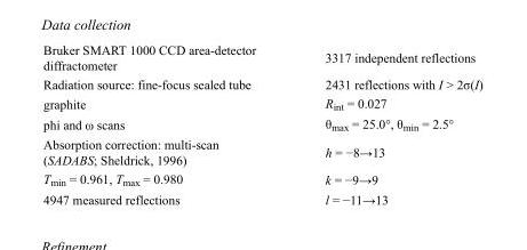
<table><tbody><tr><td>Bruker SMART 1000 CCD area-detector diffractometer</td><td>3317 independent reflections</td></tr><tr><td>Radiation source: fine-focus sealed tube</td><td>2431 reflections with I &gt; 2σ(I)</td></tr><tr><td>graphite</td><td>R<sub>int</sub> = 0.027</td></tr><tr><td>phi and ω scans</td><td>θ<sub>max</sub> = 25.0°, θ<sub>min</sub> = 2.5°</td></tr><tr><td>Absorption correction: multi-scan (SADABS; Sheldrick, 1996)</td><td>h = −8→13</td></tr><tr><td>T<sub>min</sub> = 0.961, T<sub>max</sub> = 0.980</td><td>k = −9→9</td></tr><tr><td>4947 measured reflections</td><td>l = −11→13</td></tr></tbody></table>